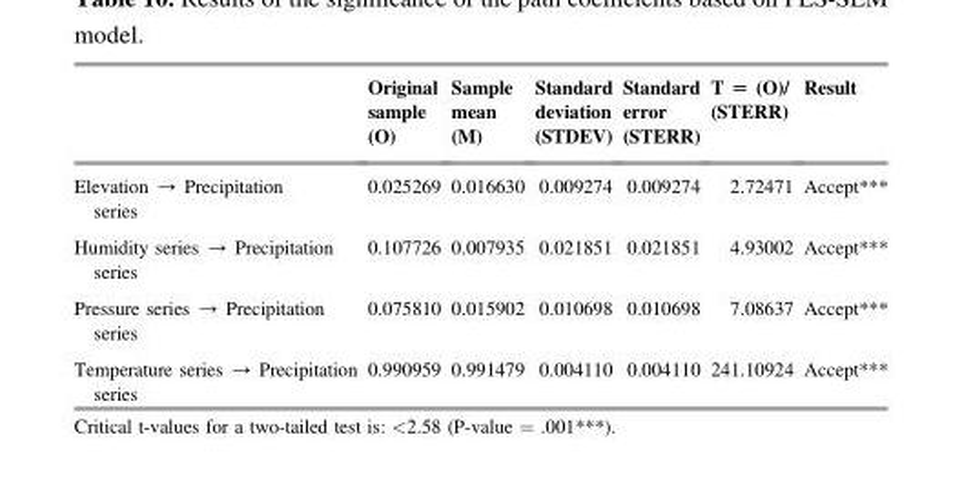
<table><thead><tr><td></td><td>Original sample (O)</td><td>Sample mean (M)</td><td>Standard deviation (STDEV)</td><td>Standard error (STERR)</td><td>T = (O)/ (STERR)</td><td>Result</td></tr></thead><tbody><tr><td>Elevation → Precipitation series</td><td>0.025269</td><td>0.016630</td><td>0.009274</td><td>0.009274</td><td>2.72471</td><td>Accept***</td></tr><tr><td>Humidity series → Precipitation series</td><td>0.107726</td><td>0.007935</td><td>0.021851</td><td>0.021851</td><td>4.93002</td><td>Accept***</td></tr><tr><td>Pressure series → Precipitation series</td><td>0.075810</td><td>0.015902</td><td>0.010698</td><td>0.010698</td><td>7.08637</td><td>Accept***</td></tr><tr><td>Temperature series → Precipitation series</td><td>0.990959</td><td>0.991479</td><td>0.004110</td><td>0.004110</td><td>241.10924</td><td>Accept***</td></tr></tbody></table>